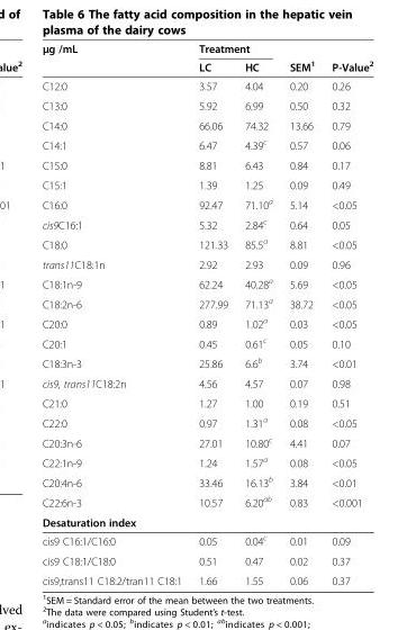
<table><thead><tr><td rowspan="2">μg /mL</td><td colspan="2">Treatment</td><td rowspan="2">SEM<sup>1</sup></td><td rowspan="2">P-Value<sup>2</sup></td></tr><tr><td>LC</td><td>HC</td></tr></thead><tbody><tr><td>C12:0</td><td>3.57</td><td>4.04</td><td>0.20</td><td>0.26</td></tr><tr><td>C13:0</td><td>5.92</td><td>6.99</td><td>0.50</td><td>0.32</td></tr><tr><td>C14:0</td><td>66.06</td><td>74.32</td><td>13.66</td><td>0.79</td></tr><tr><td>C14:1</td><td>6.47</td><td>4.39<sup>c</sup></td><td>0.57</td><td>0.06</td></tr><tr><td>C15:0</td><td>8.81</td><td>6.43</td><td>0.84</td><td>0.17</td></tr><tr><td>C15:1</td><td>1.39</td><td>1.25</td><td>0.09</td><td>0.49</td></tr><tr><td>C16:0</td><td>92.47</td><td>71.10<sup>a</sup></td><td>5.14</td><td>&lt;0.05</td></tr><tr><td>cis9C16:1</td><td>5.32</td><td>2.84<sup>c</sup></td><td>0.64</td><td>0.05</td></tr><tr><td>C18:0</td><td>121.33</td><td>85.5<sup>a</sup></td><td>8.81</td><td>&lt;0.05</td></tr><tr><td>trans11C18:1n</td><td>2.92</td><td>2.93</td><td>0.09</td><td>0.96</td></tr><tr><td>C18:1n-9</td><td>62.24</td><td>40.28<sup>a</sup></td><td>5.69</td><td>&lt;0.05</td></tr><tr><td>C18:2n-6</td><td>277.99</td><td>71.13<sup>a</sup></td><td>38.72</td><td>&lt;0.05</td></tr><tr><td>C20:0</td><td>0.89</td><td>1.02<sup>a</sup></td><td>0.03</td><td>&lt;0.05</td></tr><tr><td>C20:1</td><td>0.45</td><td>0.61<sup>c</sup></td><td>0.05</td><td>0.10</td></tr><tr><td>C18:3n-3</td><td>25.86</td><td>6.6<sup>b</sup></td><td>3.74</td><td>&lt;0.01</td></tr><tr><td>cis9, trans11C18:2n</td><td>4.56</td><td>4.57</td><td>0.07</td><td>0.98</td></tr><tr><td>C21:0</td><td>1.27</td><td>1.00</td><td>0.19</td><td>0.51</td></tr><tr><td>C22:0</td><td>0.97</td><td>1.31<sup>a</sup></td><td>0.08</td><td>&lt;0.05</td></tr><tr><td>C20:3n-6</td><td>27.01</td><td>10.80<sup>c</sup></td><td>4.41</td><td>0.07</td></tr><tr><td>C22:1n-9</td><td>1.24</td><td>1.57<sup>a</sup></td><td>0.08</td><td>&lt;0.05</td></tr><tr><td>C20:4n-6</td><td>33.46</td><td>16.13<sup>b</sup></td><td>3.84</td><td>&lt;0.01</td></tr><tr><td>C22:6n-3</td><td>10.57</td><td>6.20<sup>ab</sup></td><td>0.83</td><td>&lt;0.001</td></tr><tr><td colspan="5">Desaturation index</td></tr><tr><td>cis9 C16:1/C16:0</td><td>0.05</td><td>0.04<sup>c</sup></td><td>0.01</td><td>0.09</td></tr><tr><td>cis9 C18:1/C18:0</td><td>0.51</td><td>0.47</td><td>0.02</td><td>0.37</td></tr><tr><td>cis9,trans11 C18:2/tran11 C18:1</td><td>1.66</td><td>1.55</td><td>0.06</td><td>0.37</td></tr></tbody></table>